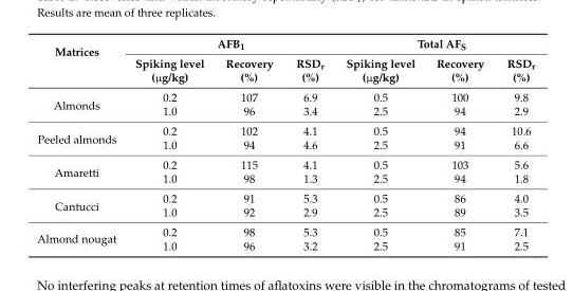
<table><thead><tr><td rowspan="2">Matrices</td><td colspan="3">AFB<sub>1</sub></td><td colspan="3">Total AF<sub>S</sub></td></tr><tr><td>Spiking level (µg/kg)</td><td>Recovery (%)</td><td>RSD<sub>r</sub> (%)</td><td>Spiking level (µg/kg)</td><td>Recovery (%)</td><td>RSD<sub>r</sub> (%)</td></tr></thead><tbody><tr><td rowspan="2">Almonds</td><td>0.2</td><td>107</td><td>6.9</td><td>0.5</td><td>100</td><td>9.8</td></tr><tr><td>1.0</td><td>96</td><td>3.4</td><td>2.5</td><td>94</td><td>2.9</td></tr><tr><td rowspan="2">Peeled almonds</td><td>0.2</td><td>102</td><td>4.1</td><td>0.5</td><td>94</td><td>10.6</td></tr><tr><td>1.0</td><td>94</td><td>4.6</td><td>2.5</td><td>91</td><td>6.6</td></tr><tr><td rowspan="2">Amaretti</td><td>0.2</td><td>115</td><td>4.1</td><td>0.5</td><td>103</td><td>5.6</td></tr><tr><td>1.0</td><td>98</td><td>1.3</td><td>2.5</td><td>94</td><td>1.8</td></tr><tr><td rowspan="2">Cantucci</td><td>0.2</td><td>91</td><td>5.3</td><td>0.5</td><td>86</td><td>4.0</td></tr><tr><td>1.0</td><td>92</td><td>2.9</td><td>2.5</td><td>89</td><td>3.5</td></tr><tr><td rowspan="2">Almond nougat</td><td>0.2</td><td>98</td><td>5.3</td><td>0.5</td><td>85</td><td>7.1</td></tr><tr><td>1.0</td><td>96</td><td>3.2</td><td>2.5</td><td>91</td><td>2.5</td></tr></tbody></table>